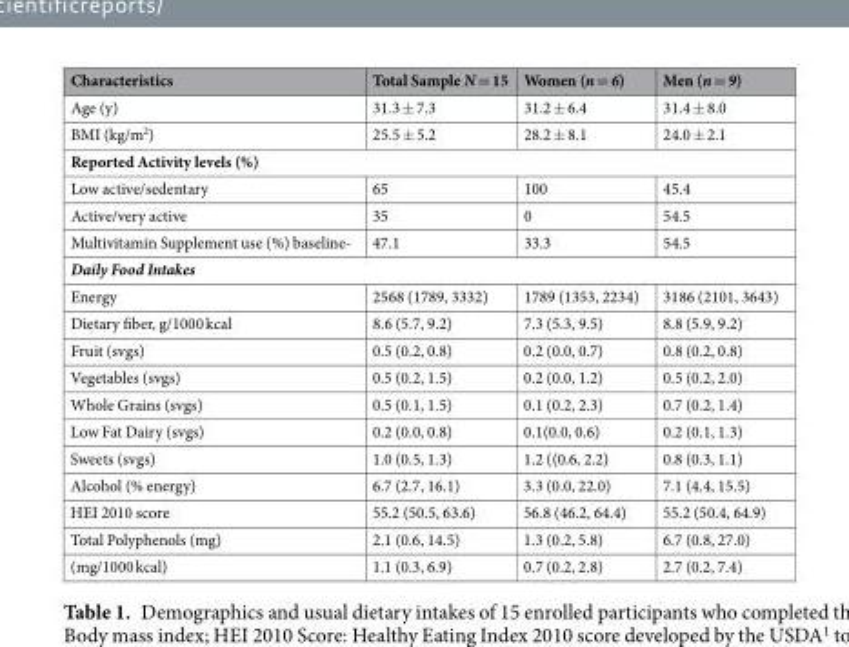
<table><thead><tr><td>Characteristics</td><td>Total Sample N = 15</td><td>Women (n = 6)</td><td>Men (n = 9)</td></tr></thead><tbody><tr><td>Age (y)</td><td>31.3 ± 7.3</td><td>31.2 ± 6.4</td><td>31.4 ± 8.0</td></tr><tr><td>BMI (kg/m<sup>2</sup>)</td><td>25.5 ± 5.2</td><td>28.2 ± 8.1</td><td>24.0 ± 2.1</td></tr><tr><td colspan="4">Reported Activity levels (%)</td></tr><tr><td>Low active/sedentary</td><td>65</td><td>100</td><td>45.4</td></tr><tr><td>Active/very active</td><td>35</td><td>0</td><td>54.5</td></tr><tr><td>Multivitamin Supplement use (%) baseline-</td><td>47.1</td><td>33.3</td><td>54.5</td></tr><tr><td colspan="4">Daily Food Intakes</td></tr><tr><td>Energy</td><td>2568 (1789, 3332)</td><td>1789 (1353, 2234)</td><td>3186 (2101, 3643)</td></tr><tr><td>Dietary fiber, g/1000 kcal</td><td>8.6 (5.7, 9.2)</td><td>7.3 (5.3, 9.5)</td><td>8.8 (5.9, 9.2)</td></tr><tr><td>Fruit (svgs)</td><td>0.5 (0.2, 0.8)</td><td>0.2 (0.0, 0.7)</td><td>0.8 (0.2, 0.8)</td></tr><tr><td>Vegetables (svgs)</td><td>0.5 (0.2, 1.5)</td><td>0.2 (0.0, 1.2)</td><td>0.5 (0.2, 2.0)</td></tr><tr><td>Whole Grains (svgs)</td><td>0.5 (0.1, 1.5)</td><td>0.1 (0.2, 2.3)</td><td>0.7 (0.2, 1.4)</td></tr><tr><td>Low Fat Dairy (svgs)</td><td>0.2 (0.0, 0.8)</td><td>0.1(0.0, 0.6)</td><td>0.2 (0.1, 1.3)</td></tr><tr><td>Sweets (svgs)</td><td>1.0 (0.5, 1.3)</td><td>1.2 ((0.6, 2.2)</td><td>0.8 (0.3, 1.1)</td></tr><tr><td>Alcohol (% energy)</td><td>6.7 (2.7, 16.1)</td><td>3.3 (0.0, 22.0)</td><td>7.1 (4.4, 15.5)</td></tr><tr><td>HEI 2010 score</td><td>55.2 (50.5, 63.6)</td><td>56.8 (46.2, 64.4)</td><td>55.2 (50.4, 64.9)</td></tr><tr><td>Total Polyphenols (mg)</td><td>2.1 (0.6, 14.5)</td><td>1.3 (0.2, 5.8)</td><td>6.7 (0.8, 27.0)</td></tr><tr><td>(mg/1000 kcal)</td><td>1.1 (0.3, 6.9)</td><td>0.7 (0.2, 2.8)</td><td>2.7 (0.2, 7.4)</td></tr></tbody></table>